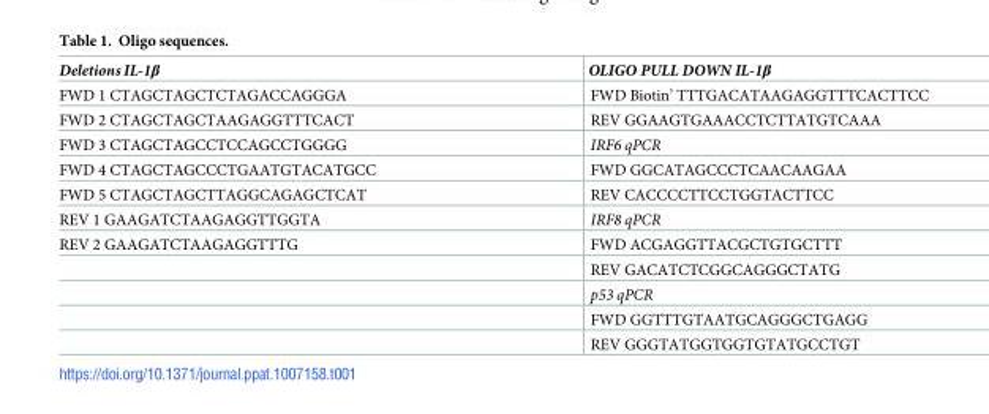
<table><thead><tr><td>Deletions IL-1β</td><td>OLIGO PULL DOWN IL-1β</td></tr></thead><tbody><tr><td>FWD 1 CTAGCTAGCTCTAGACCAGGGA</td><td>FWD Biotin’ TTTGACATAAGAGGTTTCACTTCC</td></tr><tr><td>FWD 2 CTAGCTAGCTAAGAGGTTTCACT</td><td>REV GGAAGTGAAACCTCTTATGTCAAA</td></tr><tr><td>FWD 3 CTAGCTAGCCTCCAGCCTGGGG</td><td>IRF6 qPCR</td></tr><tr><td>FWD 4 CTAGCTAGCCCTGAATGTACATGCC</td><td>FWD GGCATAGCCCTCAACAAGAA</td></tr><tr><td>FWD 5 CTAGCTAGCTTAGGCAGAGCTCAT</td><td>REV CACCCCTTCCTGGTACTTCC</td></tr><tr><td>REV 1 GAAGATCTAAGAGGTTGGTA</td><td>IRF8 qPCR</td></tr><tr><td rowspan="5">REV 2 GAAGATCTAAGAGGTTTG</td><td>FWD ACGAGGTTACGCTGTGCTTT</td></tr><tr><td>REV GACATCTCGGCAGGGCTATG</td></tr><tr><td>p53 qPCR</td></tr><tr><td>FWD GGTTTGTAATGCAGGGCTGAGG</td></tr><tr><td>REV GGGTATGGTGGTGTATGCCTGT</td></tr></tbody></table>